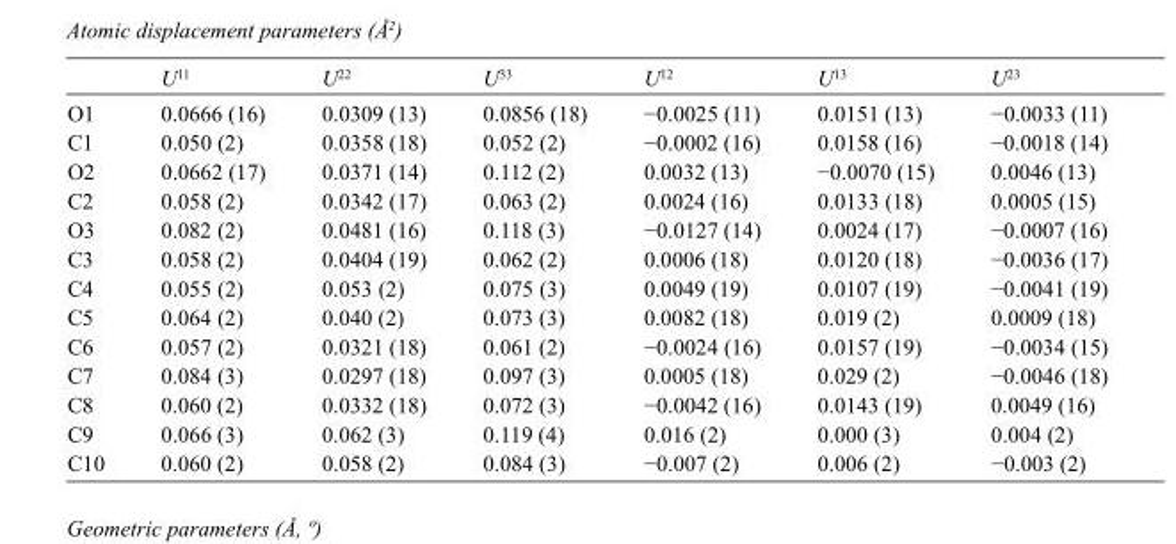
<table><thead><tr><td></td><td>U<sup>11</sup></td><td>U<sup>22</sup></td><td>U<sup>33</sup></td><td>U<sup>12</sup></td><td>U<sup>13</sup></td><td>U<sup>23</sup></td></tr></thead><tbody><tr><td>O1</td><td>0.0666 (16)</td><td>0.0309 (13)</td><td>0.0856 (18)</td><td>−0.0025 (11)</td><td>0.0151 (13)</td><td>−0.0033 (11)</td></tr><tr><td>C1</td><td>0.050 (2)</td><td>0.0358 (18)</td><td>0.052 (2)</td><td>−0.0002 (16)</td><td>0.0158 (16)</td><td>−0.0018 (14)</td></tr><tr><td>O2</td><td>0.0662 (17)</td><td>0.0371 (14)</td><td>0.112 (2)</td><td>0.0032 (13)</td><td>−0.0070 (15)</td><td>0.0046 (13)</td></tr><tr><td>C2</td><td>0.058 (2)</td><td>0.0342 (17)</td><td>0.063 (2)</td><td>0.0024 (16)</td><td>0.0133 (18)</td><td>0.0005 (15)</td></tr><tr><td>O3</td><td>0.082 (2)</td><td>0.0481 (16)</td><td>0.118 (3)</td><td>−0.0127 (14)</td><td>0.0024 (17)</td><td>−0.0007 (16)</td></tr><tr><td>C3</td><td>0.058 (2)</td><td>0.0404 (19)</td><td>0.062 (2)</td><td>0.0006 (18)</td><td>0.0120 (18)</td><td>−0.0036 (17)</td></tr><tr><td>C4</td><td>0.055 (2)</td><td>0.053 (2)</td><td>0.075 (3)</td><td>0.0049 (19)</td><td>0.0107 (19)</td><td>−0.0041 (19)</td></tr><tr><td>C5</td><td>0.064 (2)</td><td>0.040 (2)</td><td>0.073 (3)</td><td>0.0082 (18)</td><td>0.019 (2)</td><td>0.0009 (18)</td></tr><tr><td>C6</td><td>0.057 (2)</td><td>0.0321 (18)</td><td>0.061 (2)</td><td>−0.0024 (16)</td><td>0.0157 (19)</td><td>−0.0034 (15)</td></tr><tr><td>C7</td><td>0.084 (3)</td><td>0.0297 (18)</td><td>0.097 (3)</td><td>0.0005 (18)</td><td>0.029 (2)</td><td>−0.0046 (18)</td></tr><tr><td>C8</td><td>0.060 (2)</td><td>0.0332 (18)</td><td>0.072 (3)</td><td>−0.0042 (16)</td><td>0.0143 (19)</td><td>0.0049 (16)</td></tr><tr><td>C9</td><td>0.066 (3)</td><td>0.062 (3)</td><td>0.119 (4)</td><td>0.016 (2)</td><td>0.000 (3)</td><td>0.004 (2)</td></tr><tr><td>C10</td><td>0.060 (2)</td><td>0.058 (2)</td><td>0.084 (3)</td><td>−0.007 (2)</td><td>0.006 (2)</td><td>−0.003 (2)</td></tr></tbody></table>